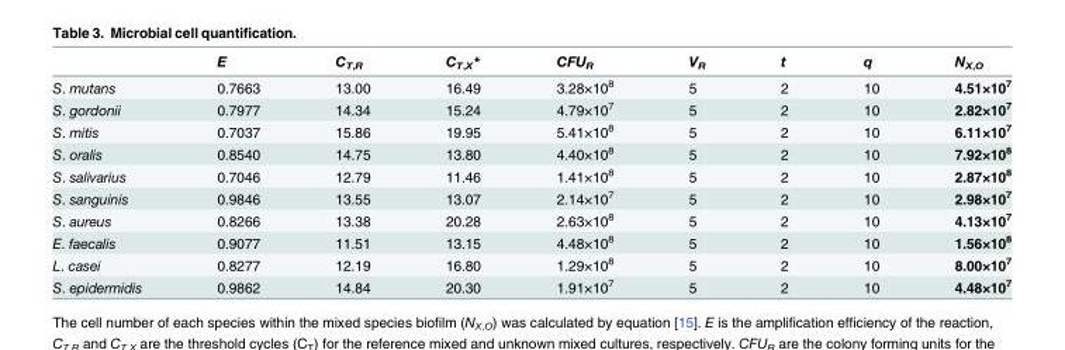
<table><thead><tr><td></td><td>E</td><td>C<sub>T,R</sub></td><td>C<sub>T,X</sub>*</td><td>CFU<sub>R</sub></td><td>V<sub>R</sub></td><td>t</td><td>q</td><td>N<sub>X,O</sub></td></tr></thead><tbody><tr><td>S. mutans</td><td>0.7663</td><td>13.00</td><td>16.49</td><td>3.28×10<sup>8</sup></td><td>5</td><td>2</td><td>10</td><td>4.51×10<sup>7</sup></td></tr><tr><td>S. gordonii</td><td>0.7977</td><td>14.34</td><td>15.24</td><td>4.79×10<sup>7</sup></td><td>5</td><td>2</td><td>10</td><td>2.82×10<sup>7</sup></td></tr><tr><td>S. mitis</td><td>0.7037</td><td>15.86</td><td>19.95</td><td>5.41×10<sup>8</sup></td><td>5</td><td>2</td><td>10</td><td>6.11×10<sup>7</sup></td></tr><tr><td>S. oralis</td><td>0.8540</td><td>14.75</td><td>13.80</td><td>4.40×10<sup>8</sup></td><td>5</td><td>2</td><td>10</td><td>7.92×10<sup>8</sup></td></tr><tr><td>S. salivarius</td><td>0.7046</td><td>12.79</td><td>11.46</td><td>1.41×10<sup>8</sup></td><td>5</td><td>2</td><td>10</td><td>2.87×10<sup>8</sup></td></tr><tr><td>S. sanguinis</td><td>0.9846</td><td>13.55</td><td>13.07</td><td>2.14×10<sup>7</sup></td><td>5</td><td>2</td><td>10</td><td>2.98×10<sup>7</sup></td></tr><tr><td>S. aureus</td><td>0.8266</td><td>13.38</td><td>20.28</td><td>2.63×10<sup>8</sup></td><td>5</td><td>2</td><td>10</td><td>4.13×10<sup>7</sup></td></tr><tr><td>E. faecalis</td><td>0.9077</td><td>11.51</td><td>13.15</td><td>4.48×10<sup>8</sup></td><td>5</td><td>2</td><td>10</td><td>1.56×10<sup>8</sup></td></tr><tr><td>L. casei</td><td>0.8277</td><td>12.19</td><td>16.80</td><td>1.29×10<sup>8</sup></td><td>5</td><td>2</td><td>10</td><td>8.00×10<sup>7</sup></td></tr><tr><td>S. epidermidis</td><td>0.9862</td><td>14.84</td><td>20.30</td><td>1.91×10<sup>7</sup></td><td>5</td><td>2</td><td>10</td><td>4.48×10<sup>7</sup></td></tr></tbody></table>